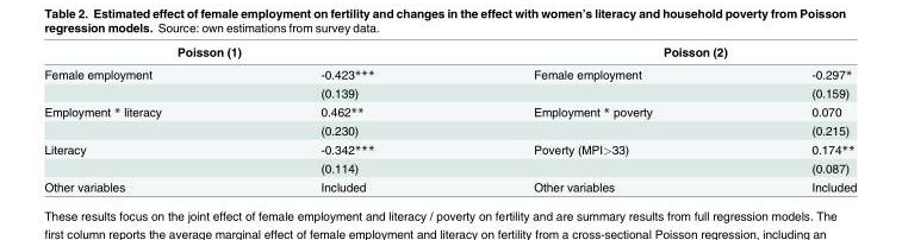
<table><thead><tr><td colspan="2">Poisson (1)</td><td colspan="2">Poisson (2)</td></tr><tr><td>Female employment</td><td>-0.423***</td><td>Female employment</td><td>-0.297*</td></tr></thead><tbody><tr><td></td><td>(0.139)</td><td></td><td>(0.159)</td></tr><tr><td rowspan="2">Employment * literacy</td><td>0.462**</td><td>Employment * poverty</td><td>0.070</td></tr><tr><td>(0.230)</td><td></td><td>(0.215)</td></tr><tr><td rowspan="2">Literacy</td><td>-0.342***</td><td>Poverty (MPI&gt;33)</td><td>0.174**</td></tr><tr><td>(0.114)</td><td></td><td>(0.087)</td></tr><tr><td>Other variables</td><td>Included</td><td>Other variables</td><td>Included</td></tr></tbody></table>